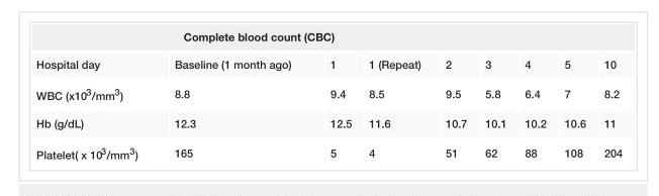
<table><tbody><tr><td colspan="9">Complete blood count (CBC)</td></tr><tr><td>Hospital day</td><td>Baseline (1 month ago)</td><td>1</td><td>1 (Repeat)</td><td>2</td><td>3</td><td>4</td><td>5</td><td>10</td></tr><tr><td>WBC (x10<sup>3</sup>/mm<sup>3</sup>)</td><td>8.8</td><td>9.4</td><td>8.5</td><td>9.5</td><td>5.8</td><td>6.4</td><td>7</td><td>8.2</td></tr><tr><td>Hb (g/dL)</td><td>12.3</td><td>12.5</td><td>11.6</td><td>10.7</td><td>10.1</td><td>10.2</td><td>10.6</td><td>11</td></tr><tr><td>Platelet( x 10<sup>3</sup>/mm<sup>3</sup>)</td><td>165</td><td>5</td><td>4</td><td>51</td><td>62</td><td>88</td><td>108</td><td>204</td></tr></tbody></table>